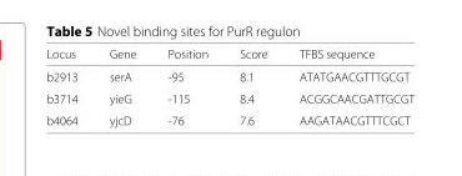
<table><thead><tr><td>Locus</td><td>Gene</td><td>Position</td><td>Score</td><td>TFBS sequence</td></tr></thead><tbody><tr><td>b2913</td><td>serA</td><td>-95</td><td>8.1</td><td>ATATGAACGTTTGCGT</td></tr><tr><td>b3714</td><td>yieG</td><td>-115</td><td>8.4</td><td>ACGGCAACGATTGCGT</td></tr><tr><td>b4064</td><td>yjcD</td><td>-76</td><td>7.6</td><td>AAGATAACGTTTCGCT</td></tr></tbody></table>